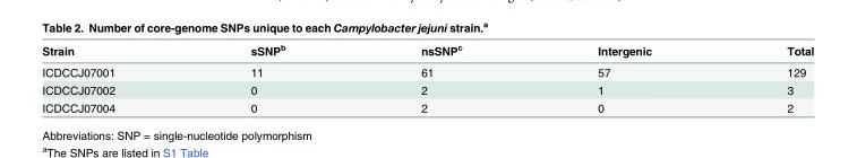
<table><thead><tr><td>Strain</td><td>sSNP<sup>b</sup></td><td>nsSNP<sup>c</sup></td><td>Intergenic</td><td>Total</td></tr></thead><tbody><tr><td>ICDCCJ07001</td><td>11</td><td>61</td><td>57</td><td>129</td></tr><tr><td>ICDCCJ07002</td><td>0</td><td>2</td><td>1</td><td>3</td></tr><tr><td>ICDCCJ07004</td><td>0</td><td>2</td><td>0</td><td>2</td></tr></tbody></table>